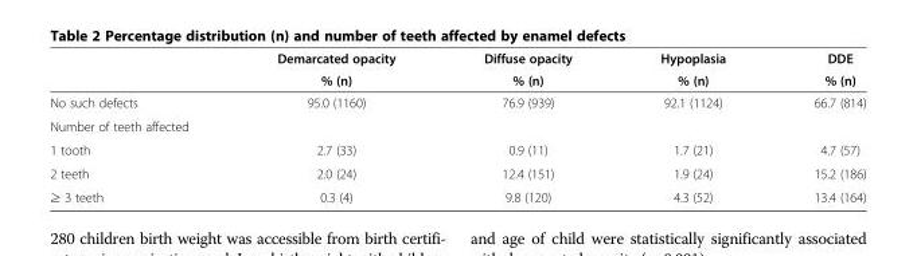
<table><thead><tr><td rowspan="2"></td><td rowspan="2">Demarcated opacity % (n)</td><td rowspan="2">Diffuse opacity % (n)</td><td rowspan="2">Hypoplasia % (n)</td><td rowspan="2">DDE % (n)</td></tr><tr></tr></thead><tbody><tr><td>No such defects</td><td>95.0 (1160)</td><td>76.9 (939)</td><td>92.1 (1124)</td><td>66.7 (814)</td></tr><tr><td colspan="5">Number of teeth affected</td></tr><tr><td>1 tooth</td><td>2.7 (33)</td><td>0.9 (11)</td><td>1.7 (21)</td><td>4.7 (57)</td></tr><tr><td>2 teeth</td><td>2.0 (24)</td><td>12.4 (151)</td><td>1.9 (24)</td><td>15.2 (186)</td></tr><tr><td>≥ 3 teeth</td><td>0.3 (4)</td><td>9.8 (120)</td><td>4.3 (52)</td><td>13.4 (164)</td></tr></tbody></table>